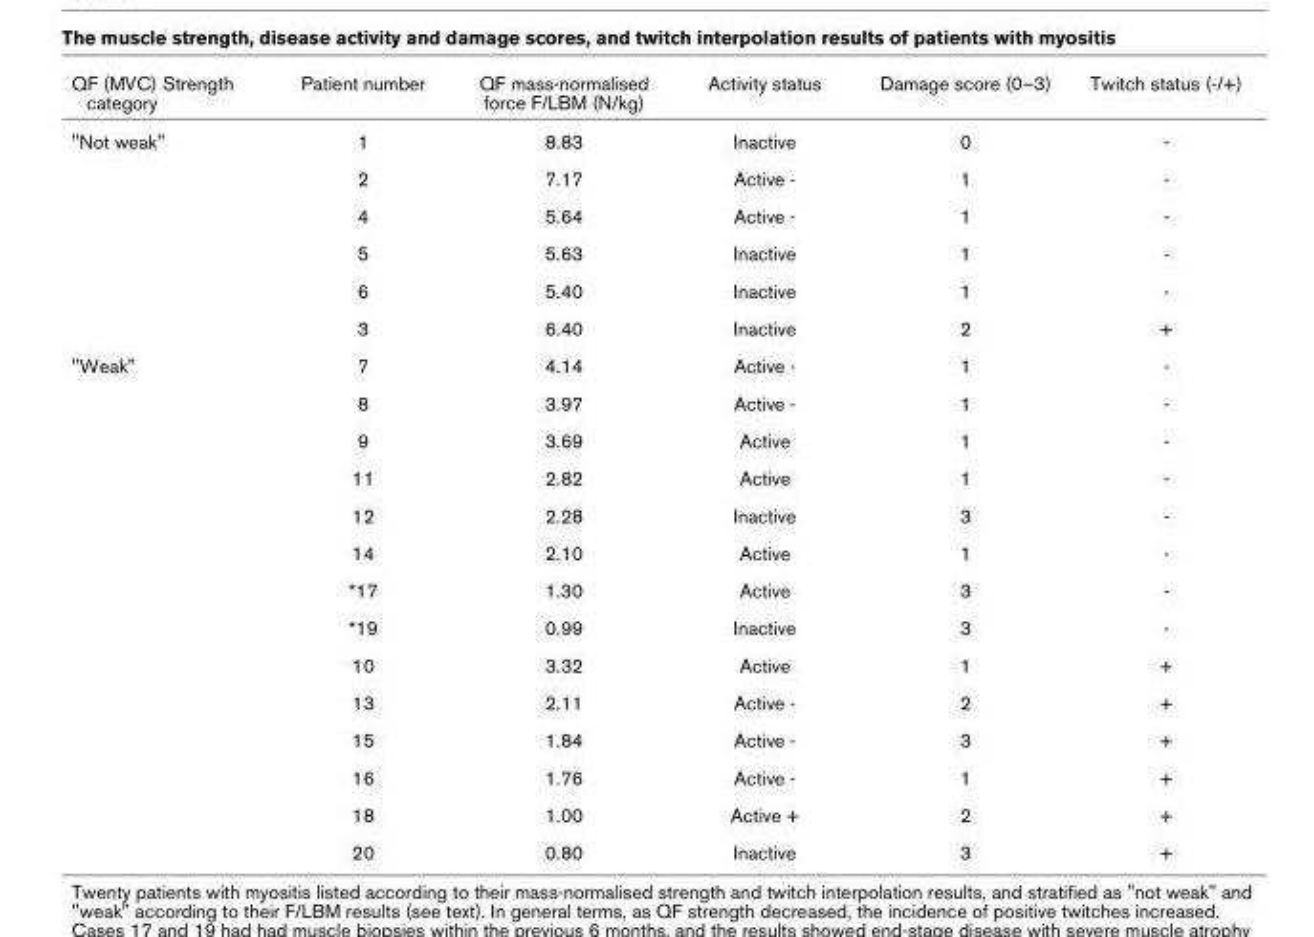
<table><thead><tr><td>QF (MVC) Strength category</td><td>Patient number</td><td>QF mass-normalised force F/LBM (N/kg)</td><td>Activity status</td><td>Damage score (0–3)</td><td>Twitch status (-/+)</td></tr></thead><tbody><tr><td rowspan="6">&quot;Not weak&quot;</td><td>1</td><td>8.83</td><td>Inactive</td><td>0</td><td>-</td></tr><tr><td>2</td><td>7.17</td><td>Active -</td><td>1</td><td>-</td></tr><tr><td>4</td><td>5.64</td><td>Active -</td><td>1</td><td>-</td></tr><tr><td>5</td><td>5.63</td><td>Inactive</td><td>1</td><td>-</td></tr><tr><td>6</td><td>5.40</td><td>Inactive</td><td>1</td><td>-</td></tr><tr><td>3</td><td>6.40</td><td>Inactive</td><td>2</td><td>+</td></tr><tr><td rowspan="14">&quot;Weak&quot;</td><td>7</td><td>4.14</td><td>Active -</td><td>1</td><td>-</td></tr><tr><td>8</td><td>3.97</td><td>Active -</td><td>1</td><td>-</td></tr><tr><td>9</td><td>3.69</td><td>Active</td><td>1</td><td>-</td></tr><tr><td>11</td><td>2.82</td><td>Active</td><td>1</td><td>-</td></tr><tr><td>12</td><td>2.28</td><td>Inactive</td><td>3</td><td>-</td></tr><tr><td>14</td><td>2.10</td><td>Active</td><td>1</td><td>-</td></tr><tr><td>*17</td><td>1.30</td><td>Active</td><td>3</td><td>-</td></tr><tr><td>*19</td><td>0.99</td><td>Inactive</td><td>3</td><td>-</td></tr><tr><td>10</td><td>3.32</td><td>Active</td><td>1</td><td>+</td></tr><tr><td>13</td><td>2.11</td><td>Active -</td><td>2</td><td>+</td></tr><tr><td>15</td><td>1.84</td><td>Active -</td><td>3</td><td>+</td></tr><tr><td>16</td><td>1.76</td><td>Active -</td><td>1</td><td>+</td></tr><tr><td>18</td><td>1.00</td><td>Active +</td><td>2</td><td>+</td></tr><tr><td>20</td><td>0.80</td><td>Inactive</td><td>3</td><td>+</td></tr></tbody></table>